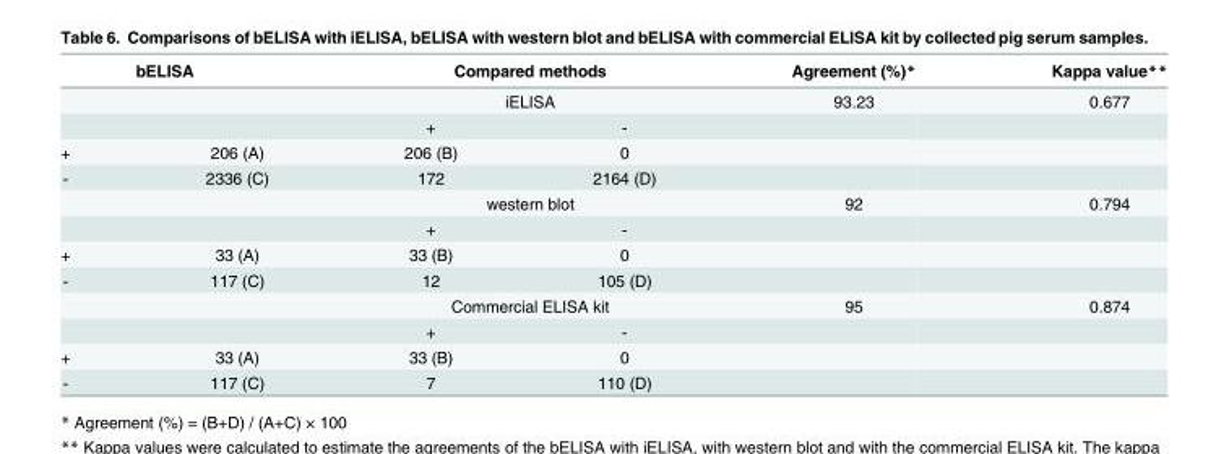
<table><thead><tr><td rowspan="3" colspan="2">bELISA</td><td rowspan="2" colspan="2">Compared methods iELISA</td><td rowspan="4">Agreement (%)* 93.23</td><td rowspan="4">Kappa value** 0.677</td></tr><tr></tr><tr><td rowspan="2">+ 206 (B)</td><td rowspan="2">- 0</td></tr><tr><td>+</td><td>206 (A)</td></tr></thead><tbody><tr><td>-</td><td>2336 (C)</td><td>172</td><td>2164 (D)</td><td></td><td></td></tr><tr><td colspan="2"></td><td colspan="2">western blot</td><td>92</td><td>0.794</td></tr><tr><td colspan="2"></td><td>+</td><td>-</td><td></td><td></td></tr><tr><td>+</td><td>33 (A)</td><td>33 (B)</td><td>0</td><td></td><td></td></tr><tr><td>-</td><td>117 (C)</td><td>12</td><td>105 (D)</td><td></td><td></td></tr><tr><td colspan="2"></td><td colspan="2">Commercial ELISA kit</td><td>95</td><td>0.874</td></tr><tr><td colspan="2"></td><td>+</td><td>-</td><td></td><td></td></tr><tr><td>+</td><td>33 (A)</td><td>33 (B)</td><td>0</td><td></td><td></td></tr><tr><td>-</td><td>117 (C)</td><td>7</td><td>110 (D)</td><td></td><td></td></tr></tbody></table>